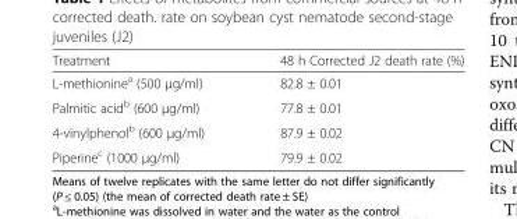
<table><thead><tr><td>Treatment</td><td>48 h Corrected J2 death rate (%)</td></tr></thead><tbody><tr><td>L-methionine<sup>a</sup> (500 μg/ml)</td><td>82.8 ± 0.01</td></tr><tr><td>Palmitic acid<sup>b</sup> (600 μg/ml)</td><td>77.8 ± 0.01</td></tr><tr><td>4-vinylphenol<sup>b</sup> (600 μg/ml)</td><td>87.9 ± 0.02</td></tr><tr><td>Piperine<sup>c</sup> (1000 μg/ml)</td><td>79.9 ± 0.02</td></tr></tbody></table>